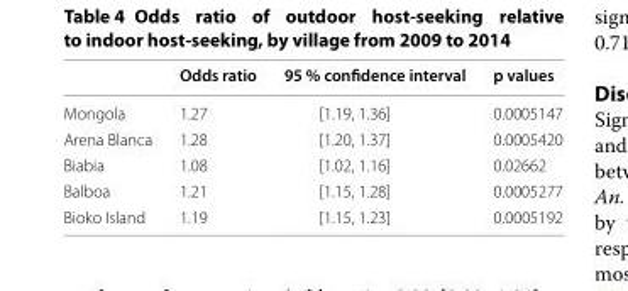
<table><thead><tr><td></td><td>Odds ratio</td><td>95 % confidence interval</td><td>p values</td></tr></thead><tbody><tr><td>Mongola</td><td>1.27</td><td>[1.19, 1.36]</td><td>0.0005147</td></tr><tr><td>Arena Blanca</td><td>1.28</td><td>[1.20, 1.37]</td><td>0.0005420</td></tr><tr><td>Biabia</td><td>1.08</td><td>[1.02, 1.16]</td><td>0.02662</td></tr><tr><td>Balboa</td><td>1.21</td><td>[1.15, 1.28]</td><td>0.0005277</td></tr><tr><td>Bioko Island</td><td>1.19</td><td>[1.15, 1.23]</td><td>0.0005192</td></tr></tbody></table>